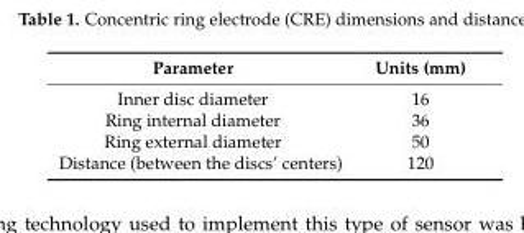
<table><thead><tr><td>Parameter</td><td>Units (mm)</td></tr></thead><tbody><tr><td>Inner disc diameter</td><td>16</td></tr><tr><td>Ring internal diameter</td><td>36</td></tr><tr><td>Ring external diameter</td><td>50</td></tr><tr><td>Distance (between the discs’ centers)</td><td>120</td></tr></tbody></table>